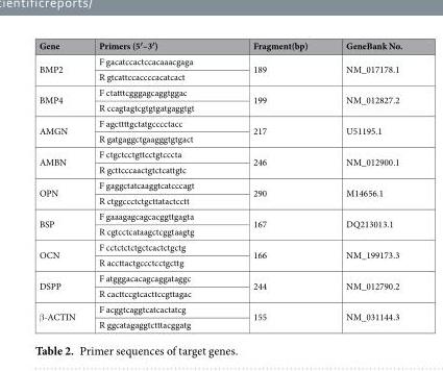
<table><thead><tr><td>Gene</td><td>Primers (5′–3′)</td><td>Fragment(bp)</td><td>GeneBank No.</td></tr></thead><tbody><tr><td rowspan="2">BMP2</td><td>F gacatccactccacaaacgaga</td><td rowspan="2">189</td><td rowspan="2">NM_017178.1</td></tr><tr><td>R gtcattccaccccacatcact</td></tr><tr><td rowspan="2">BMP4</td><td>F ctatttcgggagcaggtggac</td><td rowspan="2">199</td><td rowspan="2">NM_012827.2</td></tr><tr><td>R ccagtagtcgtgtgatgaggtgt</td></tr><tr><td rowspan="2">AMGN</td><td>F agcttttgctatgcccctacc</td><td rowspan="2">217</td><td rowspan="2">U51195.1</td></tr><tr><td>R gatgaggctgaagggtgtgact</td></tr><tr><td rowspan="2">AMBN</td><td>F ctgctcctgttcctgtcccta</td><td rowspan="2">246</td><td rowspan="2">NM_012900.1</td></tr><tr><td>R gcttcccaactgtctcattgtc</td></tr><tr><td rowspan="2">OPN</td><td>F gaggctatcaaggtcatcccagt</td><td rowspan="2">290</td><td rowspan="2">M14656.1</td></tr><tr><td>R ctggccctctgcttatactcctt</td></tr><tr><td rowspan="2">BSP</td><td>F gaaagagcagcacggttgagta</td><td rowspan="2">167</td><td rowspan="2">DQ213013.1</td></tr><tr><td>R cgtcctcataagctcggtaagtg</td></tr><tr><td rowspan="2">OCN</td><td>F cctctctctgctcactctgctg</td><td rowspan="2">166</td><td rowspan="2">NM_199173.3</td></tr><tr><td>R accttactgccctcctgcttg</td></tr><tr><td rowspan="2">DSPP</td><td>F atgggacacagcaggataggc</td><td rowspan="2">244</td><td rowspan="2">NM_012790.2</td></tr><tr><td>R cacttccgtcacttccgttagac</td></tr><tr><td rowspan="2">β-ACTIN</td><td>F acggtcaggtcatcactatcg</td><td rowspan="2">155</td><td rowspan="2">NM_031144.3</td></tr><tr><td>R ggcatagaggtctttacggatg</td></tr></tbody></table>